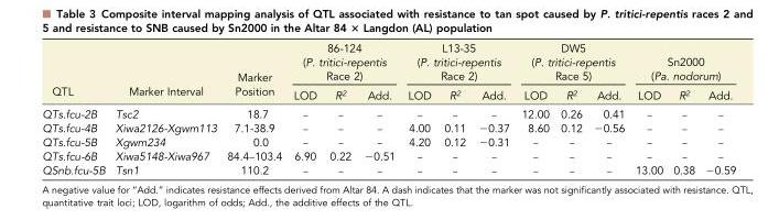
<table><thead><tr><td rowspan="2">QTL</td><td rowspan="2">Marker Interval</td><td rowspan="2">Marker Position</td><td colspan="3">86-124 (P. tritici-repentis Race 2)</td><td colspan="3">L13-35 (P. tritici-repentis Race 2)</td><td colspan="3">DW5 (P. tritici-repentis Race 5)</td><td colspan="3">Sn2000 (Pa. nodorum)</td></tr><tr><td>LOD</td><td>R<sup>2</sup></td><td>Add.</td><td>LOD</td><td>R<sup>2</sup></td><td>Add.</td><td>LOD</td><td>R<sup>2</sup></td><td>Add.</td><td>LOD</td><td>R<sup>2</sup></td><td>Add.</td></tr></thead><tbody><tr><td>QTs.fcu-2B</td><td>Tsc2</td><td>18.7</td><td>–</td><td>–</td><td>–</td><td>–</td><td>–</td><td>–</td><td>12.00</td><td>0.26</td><td>0.41</td><td>–</td><td>–</td><td>–</td></tr><tr><td>QTs.fcu-4B</td><td>Xiwa2126-Xgwm113</td><td>7.1-38.9</td><td>–</td><td>–</td><td>–</td><td>4.00</td><td>0.11</td><td>−0.37</td><td>8.60</td><td>0.12</td><td>−0.56</td><td>–</td><td>–</td><td>–</td></tr><tr><td>QTs.fcu-5B</td><td>Xgwm234</td><td>0.0</td><td>–</td><td>–</td><td>–</td><td>4.20</td><td>0.12</td><td>−0.31</td><td>–</td><td>–</td><td>–</td><td>–</td><td>–</td><td>–</td></tr><tr><td>QTs.fcu-6B</td><td>Xiwa5148-Xiwa967</td><td>84.4–103.4</td><td>6.90</td><td>0.22</td><td>−0.51</td><td>–</td><td>–</td><td>–</td><td>–</td><td>–</td><td>–</td><td>–</td><td>–</td><td>–</td></tr><tr><td>QSnb.fcu-5B</td><td>Tsn1</td><td>110.2</td><td>–</td><td>–</td><td>–</td><td>–</td><td>–</td><td>–</td><td>–</td><td>–</td><td>–</td><td>13.00</td><td>0.38</td><td>−0.59</td></tr></tbody></table>